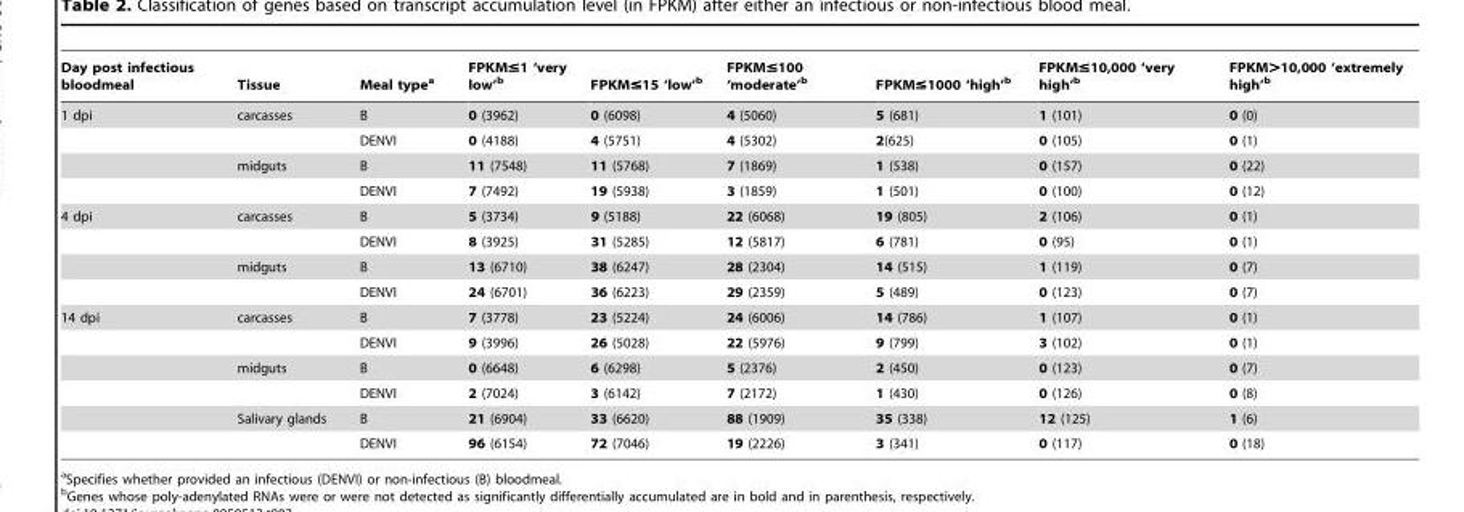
<table><thead><tr><td>Day post infectious bloodmeal</td><td>Tissue</td><td>Meal type<sup>a</sup></td><td>FPKM≤1 ‘very low’<sup>b</sup></td><td>FPKM≤15 ‘low’<sup>b</sup></td><td>FPKM≤100 ‘moderate’<sup>b</sup></td><td>FPKM≤1000 ‘high’<sup>b</sup></td><td>FPKM≤10,000 ‘very high’<sup>b</sup></td><td>FPKM&gt;10,000 ‘extremely high’<sup>b</sup></td></tr></thead><tbody><tr><td rowspan="4">1 dpi</td><td>carcasses</td><td>B</td><td>0 (3962)</td><td>0 (6098)</td><td>4 (5060)</td><td>5 (681)</td><td>1 (101)</td><td>0 (0)</td></tr><tr><td></td><td>DENVI</td><td>0 (4188)</td><td>4 (5751)</td><td>4 (5302)</td><td>2(625)</td><td>0 (105)</td><td>0 (1)</td></tr><tr><td>midguts</td><td>B</td><td>11 (7548)</td><td>11 (5768)</td><td>7 (1869)</td><td>1 (538)</td><td>0 (157)</td><td>0 (22)</td></tr><tr><td></td><td>DENVI</td><td>7 (7492)</td><td>19 (5938)</td><td>3 (1859)</td><td>1 (501)</td><td>0 (100)</td><td>0 (12)</td></tr><tr><td rowspan="4">4 dpi</td><td>carcasses</td><td>B</td><td>5 (3734)</td><td>9 (5188)</td><td>22 (6068)</td><td>19 (805)</td><td>2 (106)</td><td>0 (1)</td></tr><tr><td></td><td>DENVI</td><td>8 (3925)</td><td>31 (5285)</td><td>12 (5817)</td><td>6 (781)</td><td>0 (95)</td><td>0 (1)</td></tr><tr><td>midguts</td><td>B</td><td>13 (6710)</td><td>38 (6247)</td><td>28 (2304)</td><td>14 (515)</td><td>1 (119)</td><td>0 (7)</td></tr><tr><td></td><td>DENVI</td><td>24 (6701)</td><td>36 (6223)</td><td>29 (2359)</td><td>5 (489)</td><td>0 (123)</td><td>0 (7)</td></tr><tr><td rowspan="6">14 dpi</td><td>carcasses</td><td>B</td><td>7 (3778)</td><td>23 (5224)</td><td>24 (6006)</td><td>14 (786)</td><td>1 (107)</td><td>0 (1)</td></tr><tr><td></td><td>DENVI</td><td>9 (3996)</td><td>26 (5028)</td><td>22 (5976)</td><td>9 (799)</td><td>3 (102)</td><td>0 (1)</td></tr><tr><td>midguts</td><td>B</td><td>0 (6648)</td><td>6 (6298)</td><td>5 (2376)</td><td>2 (450)</td><td>0 (123)</td><td>0 (7)</td></tr><tr><td></td><td>DENVI</td><td>2 (7024)</td><td>3 (6142)</td><td>7 (2172)</td><td>1 (430)</td><td>0 (126)</td><td>0 (8)</td></tr><tr><td>Salivary glands</td><td>B</td><td>21 (6904)</td><td>33 (6620)</td><td>88 (1909)</td><td>35 (338)</td><td>12 (125)</td><td>1 (6)</td></tr><tr><td></td><td>DENVI</td><td>96 (6154)</td><td>72 (7046)</td><td>19 (2226)</td><td>3 (341)</td><td>0 (117)</td><td>0 (18)</td></tr></tbody></table>